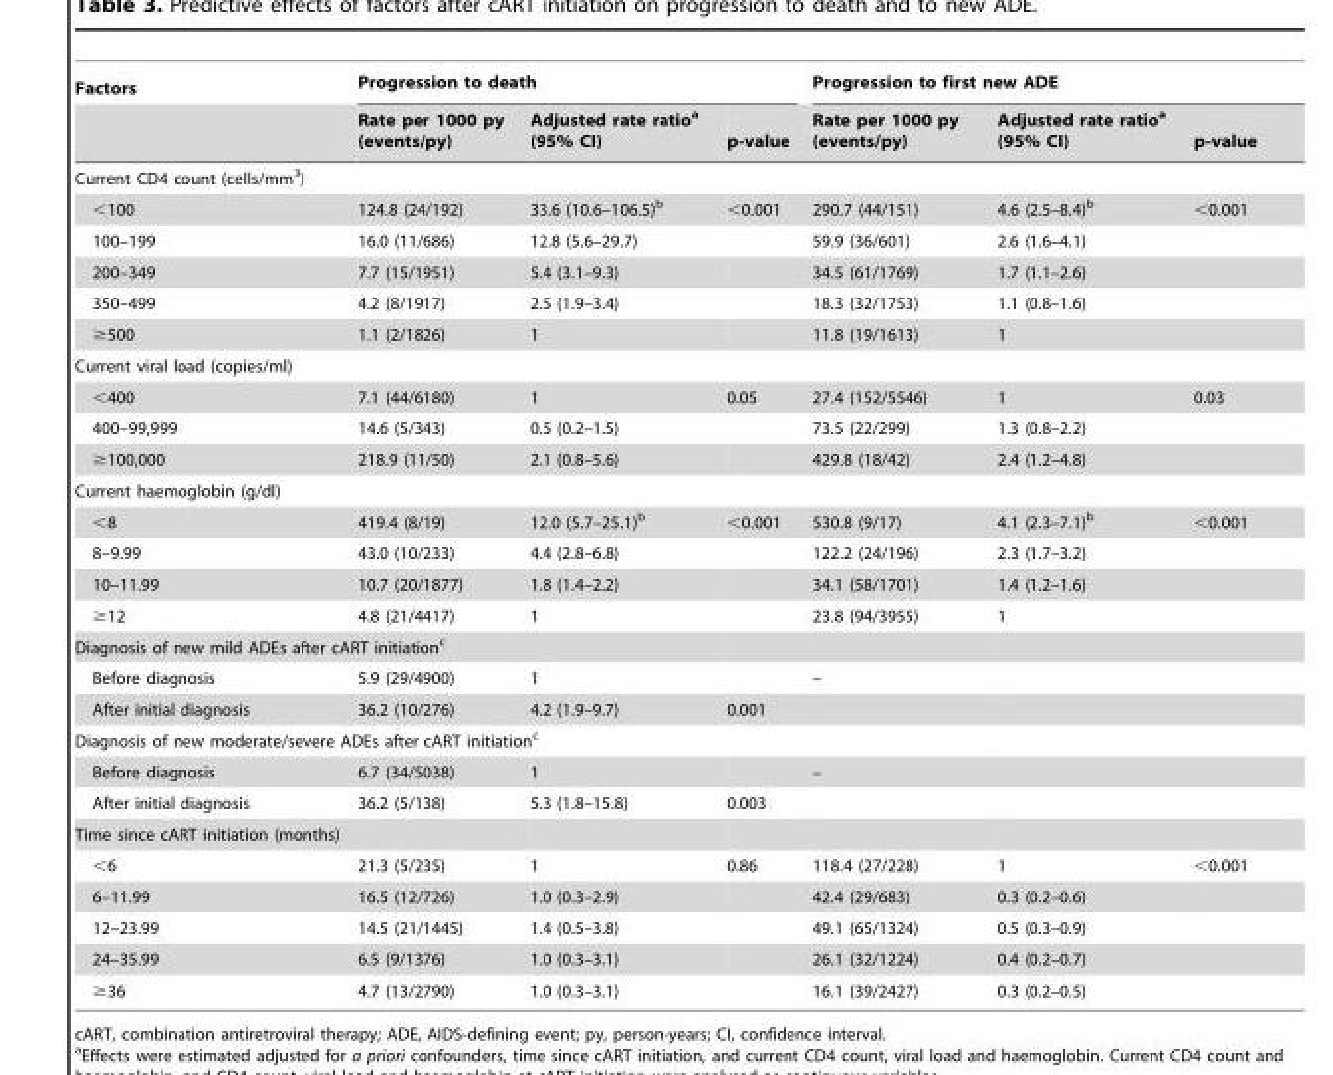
<table><thead><tr><td rowspan="2">Factors</td><td colspan="3">Progression to death</td><td colspan="3">Progression to first new ADE</td></tr><tr><td>Rate per 1000 py (events/py)</td><td>Adjusted rate ratio<sup>a</sup> (95% CI)</td><td>p-value</td><td>Rate per 1000 py (events/py)</td><td>Adjusted rate ratio<sup>a</sup> (95% CI)</td><td>p-value</td></tr></thead><tbody><tr><td colspan="7">Current CD4 count (cells/mm<sup>3</sup>)</td></tr><tr><td>&lt;100</td><td>124.8 (24/192)</td><td>33.6 (10.6–106.5)<sup>b</sup></td><td>&lt;0.001</td><td>290.7 (44/151)</td><td>4.6 (2.5–8.4)<sup>b</sup></td><td>&lt;0.001</td></tr><tr><td>100–199</td><td>16.0 (11/686)</td><td>12.8 (5.6–29.7)</td><td></td><td>59.9 (36/601)</td><td>2.6 (1.6–4.1)</td><td></td></tr><tr><td>200–349</td><td>7.7 (15/1951)</td><td>5.4 (3.1–9.3)</td><td></td><td>34.5 (61/1769)</td><td>1.7 (1.1–2.6)</td><td></td></tr><tr><td>350–499</td><td>4.2 (8/1917)</td><td>2.5 (1.9–3.4)</td><td></td><td>18.3 (32/1753)</td><td>1.1 (0.8–1.6)</td><td></td></tr><tr><td>≥500</td><td>1.1 (2/1826)</td><td>1</td><td></td><td>11.8 (19/1613)</td><td>1</td><td></td></tr><tr><td colspan="7">Current viral load (copies/ml)</td></tr><tr><td>&lt;400</td><td>7.1 (44/6180)</td><td>1</td><td>0.05</td><td>27.4 (152/5546)</td><td>1</td><td>0.03</td></tr><tr><td>400–99,999</td><td>14.6 (5/343)</td><td>0.5 (0.2–1.5)</td><td></td><td>73.5 (22/299)</td><td>1.3 (0.8–2.2)</td><td></td></tr><tr><td>≥100,000</td><td>218.9 (11/50)</td><td>2.1 (0.8–5.6)</td><td></td><td>429.8 (18/42)</td><td>2.4 (1.2–4.8)</td><td></td></tr><tr><td colspan="7">Current haemoglobin (g/dl)</td></tr><tr><td>&lt;8</td><td>419.4 (8/19)</td><td>12.0 (5.7–25.1)<sup>b</sup></td><td>&lt;0.001</td><td>530.8 (9/17)</td><td>4.1 (2.3–7.1)<sup>b</sup></td><td>&lt;0.001</td></tr><tr><td>8–9.99</td><td>43.0 (10/233)</td><td>4.4 (2.8–6.8)</td><td></td><td>122.2 (24/196)</td><td>2.3 (1.7–3.2)</td><td></td></tr><tr><td>10–11.99</td><td>10.7 (20/1877)</td><td>1.8 (1.4–2.2)</td><td></td><td>34.1 (58/1701)</td><td>1.4 (1.2–1.6)</td><td></td></tr><tr><td>≥12</td><td>4.8 (21/4417)</td><td>1</td><td></td><td>23.8 (94/3955)</td><td>1</td><td></td></tr><tr><td colspan="7">Diagnosis of new mild ADEs after cART initiation<sup>c</sup></td></tr><tr><td>Before diagnosis</td><td>5.9 (29/4900)</td><td>1</td><td></td><td>–</td><td></td><td></td></tr><tr><td>After initial diagnosis</td><td>36.2 (10/276)</td><td>4.2 (1.9–9.7)</td><td>0.001</td><td></td><td></td><td></td></tr><tr><td colspan="7">Diagnosis of new moderate/severe ADEs after cART initiation<sup>c</sup></td></tr><tr><td>Before diagnosis</td><td>6.7 (34/5038)</td><td>1</td><td></td><td>–</td><td></td><td></td></tr><tr><td>After initial diagnosis</td><td>36.2 (5/138)</td><td>5.3 (1.8–15.8)</td><td>0.003</td><td></td><td></td><td></td></tr><tr><td colspan="7">Time since cART initiation (months)</td></tr><tr><td>&lt;6</td><td>21.3 (5/235)</td><td>1</td><td>0.86</td><td>118.4 (27/228)</td><td>1</td><td>&lt;0.001</td></tr><tr><td>6–11.99</td><td>16.5 (12/726)</td><td>1.0 (0.3–2.9)</td><td></td><td>42.4 (29/683)</td><td>0.3 (0.2–0.6)</td><td></td></tr><tr><td>12–23.99</td><td>14.5 (21/1445)</td><td>1.4 (0.5–3.8)</td><td></td><td>49.1 (65/1324)</td><td>0.5 (0.3–0.9)</td><td></td></tr><tr><td>24–35.99</td><td>6.5 (9/1376)</td><td>1.0 (0.3–3.1)</td><td></td><td>26.1 (32/1224)</td><td>0.4 (0.2–0.7)</td><td></td></tr><tr><td>≥36</td><td>4.7 (13/2790)</td><td>1.0 (0.3–3.1)</td><td></td><td>16.1 (39/2427)</td><td>0.3 (0.2–0.5)</td><td></td></tr></tbody></table>